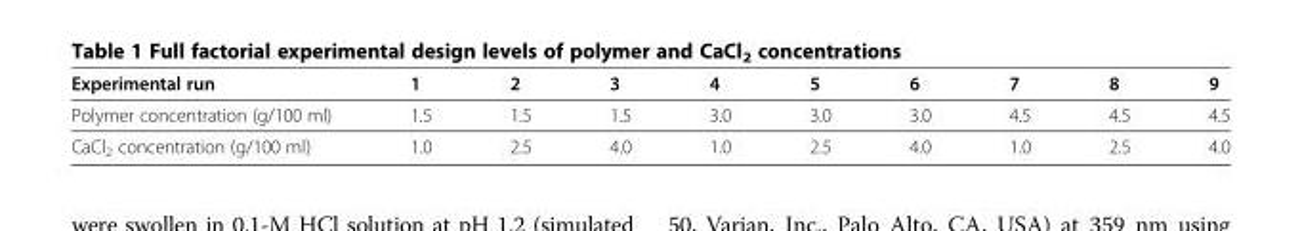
<table><thead><tr><td>Experimental run</td><td>1</td><td>2</td><td>3</td><td>4</td><td>5</td><td>6</td><td>7</td><td>8</td><td>9</td></tr></thead><tbody><tr><td>Polymer concentration (g/100 ml)</td><td>1.5</td><td>1.5</td><td>1.5</td><td>3.0</td><td>3.0</td><td>3.0</td><td>4.5</td><td>4.5</td><td>4.5</td></tr><tr><td>CaCl<sub>2</sub> concentration (g/100 ml)</td><td>1.0</td><td>2.5</td><td>4.0</td><td>1.0</td><td>2.5</td><td>4.0</td><td>1.0</td><td>2.5</td><td>4.0</td></tr></tbody></table>